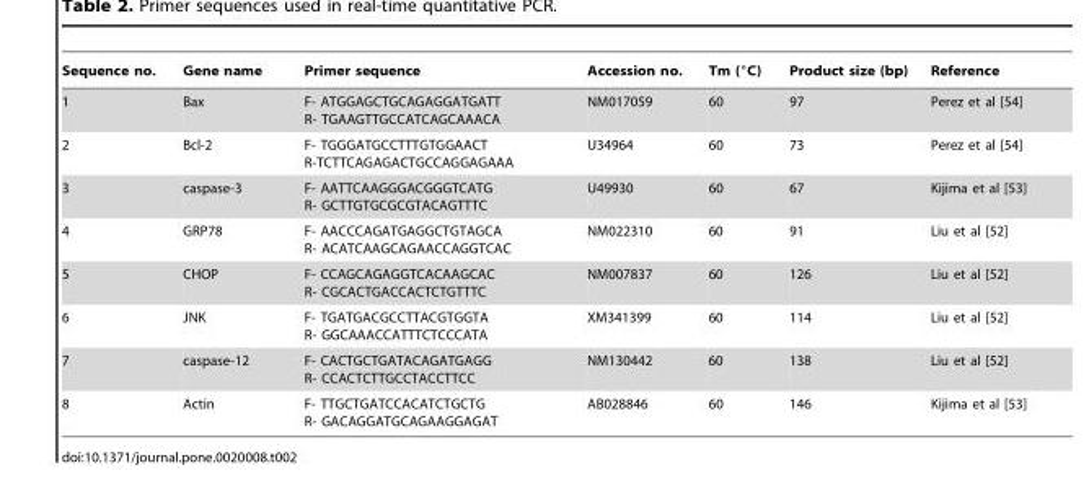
<table><thead><tr><td>Sequence no.</td><td>Gene name</td><td>Primer sequence</td><td>Accession no.</td><td>Tm (°C)</td><td>Product size (bp)</td><td>Reference</td></tr></thead><tbody><tr><td>1</td><td>Bax</td><td>F- ATGGAGCTGCAGAGGATGATT R- TGAAGTTGCCATCAGCAAACA</td><td>NM017059</td><td>60</td><td>97</td><td>Perez et al [54]</td></tr><tr><td>2</td><td>Bcl-2</td><td>F- TGGGATGCCTTTGTGGAACT R-TCTTCAGAGACTGCCAGGAGAAA</td><td>U34964</td><td>60</td><td>73</td><td>Perez et al [54]</td></tr><tr><td>3</td><td>caspase-3</td><td>F- AATTCAAGGGACGGGTCATG R- GCTTGTGCGCGTACAGTTTC</td><td>U49930</td><td>60</td><td>67</td><td>Kijima et al [53]</td></tr><tr><td>4</td><td>GRP78</td><td>F- AACCCAGATGAGGCTGTAGCA R- ACATCAAGCAGAACCAGGTCAC</td><td>NM022310</td><td>60</td><td>91</td><td>Liu et al [52]</td></tr><tr><td>5</td><td>CHOP</td><td>F- CCAGCAGAGGTCACAAGCAC R- CGCACTGACCACTCTGTTTC</td><td>NM007837</td><td>60</td><td>126</td><td>Liu et al [52]</td></tr><tr><td>6</td><td>JNK</td><td>F- TGATGACGCCTTACGTGGTA R- GGCAAACCATTTCTCCCATA</td><td>XM341399</td><td>60</td><td>114</td><td>Liu et al [52]</td></tr><tr><td>7</td><td>caspase-12</td><td>F- CACTGCTGATACAGATGAGG R- CCACTCTTGCCTACCTTCC</td><td>NM130442</td><td>60</td><td>138</td><td>Liu et al [52]</td></tr><tr><td>8</td><td>Actin</td><td>F- TTGCTGATCCACATCTGCTG R- GACAGGATGCAGAAGGAGAT</td><td>AB028846</td><td>60</td><td>146</td><td>Kijima et al [53]</td></tr></tbody></table>